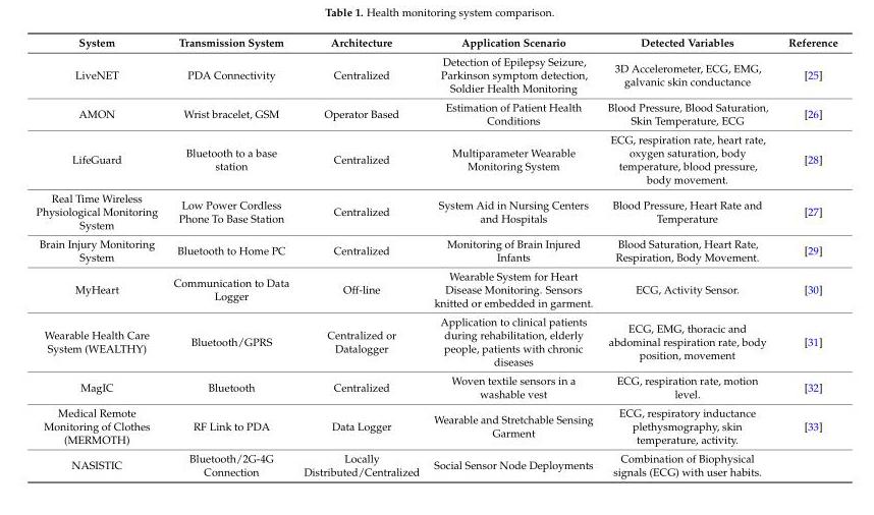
<table><thead><tr><td>System</td><td>Transmission System</td><td>Architecture</td><td>Application Scenario</td><td>Detected Variables</td><td>Reference</td></tr></thead><tbody><tr><td>LiveNET</td><td>PDA Connectivity</td><td>Centralized</td><td>Detection of Epilepsy Seizure, Parkinson symptom detection, Soldier Health Monitoring</td><td>3D Accelerometer, ECG, EMG, galvanic skin conductance</td><td>[25]</td></tr><tr><td>AMON</td><td>Wrist bracelet, GSM</td><td>Operator Based</td><td>Estimation of Patient Health Conditions</td><td>Blood Pressure, Blood Saturation, Skin Temperature, ECG</td><td>[26]</td></tr><tr><td>LifeGuard</td><td>Bluetooth to a base station</td><td>Centralized</td><td>Multiparameter Wearable Monitoring System</td><td>ECG, respiration rate, heart rate, oxygen saturation, body temperature, blood pressure, body movement.</td><td>[28]</td></tr><tr><td>Real Time Wireless Physiological Monitoring System</td><td>Low Power Cordless Phone To Base Station</td><td>Centralized</td><td>System Aid in Nursing Centers and Hospitals</td><td>Blood Pressure, Heart Rate and Temperature</td><td>[27]</td></tr><tr><td>Brain Injury Monitoring System</td><td>Bluetooth to Home PC</td><td>Centralized</td><td>Monitoring of Brain Injured Infants</td><td>Blood Saturation, Heart Rate, Respiration, Body Movement.</td><td>[29]</td></tr><tr><td>MyHeart</td><td>Communication to Data Logger</td><td>Off-line</td><td>Wearable System for Heart Disease Monitoring. Sensors knitted or embedded in garment.</td><td>ECG, Activity Sensor.</td><td>[30]</td></tr><tr><td>Wearable Health Care System (WEALTHY)</td><td>Bluetooth/GPRS</td><td>Centralized or Datalogger</td><td>Application to clinical patients during rehabilitation, elderly people, patients with chronic diseases</td><td>ECG, EMG, thoracic and abdominal respiration rate, body position, movement</td><td>[31]</td></tr><tr><td>MagIC</td><td>Bluetooth</td><td>Centralized</td><td>Woven textile sensors in a washable vest</td><td>ECG, respiration rate, motion level.</td><td>[32]</td></tr><tr><td>Medical Remote Monitoring of Clothes (MERMOTH)</td><td>RF Link to PDA</td><td>Data Logger</td><td>Wearable and Stretchable Sensing Garment</td><td>ECG, respiratory inductance plethysmography, skin temperature, activity.</td><td>[33]</td></tr><tr><td>NASISTIC</td><td>Bluetooth/2G-4G Connection</td><td>Locally Distributed/Centralized</td><td>Social Sensor Node Deployments</td><td>Combination of Biophysical signals (ECG) with user habits.</td><td></td></tr></tbody></table>